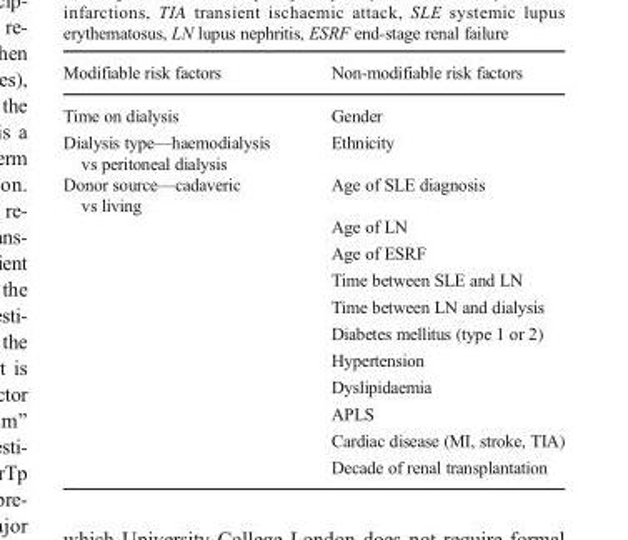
<table><thead><tr><td>Modifiable risk factors</td><td>Non-modifiable risk factors</td></tr></thead><tbody><tr><td>Time on dialysis</td><td>Gender</td></tr><tr><td>Dialysis type—haemodialysis vs peritoneal dialysis</td><td>Ethnicity</td></tr><tr><td rowspan="11">Donor source—cadaveric vs living</td><td>Age of SLE diagnosis</td></tr><tr><td>Age of LN</td></tr><tr><td>Age of ESRF</td></tr><tr><td>Time between SLE and LN</td></tr><tr><td>Time between LN and dialysis</td></tr><tr><td>Diabetes mellitus (type 1 or 2)</td></tr><tr><td>Hypertension</td></tr><tr><td>Dyslipidaemia</td></tr><tr><td>APLS</td></tr><tr><td>Cardiac disease (MI, stroke, TIA)</td></tr><tr><td>Decade of renal transplantation</td></tr></tbody></table>